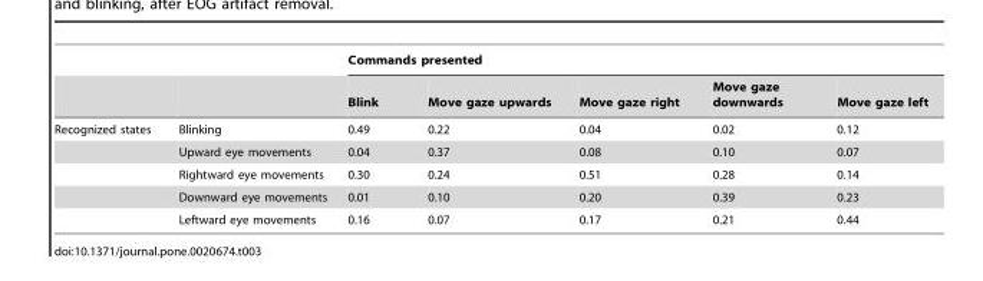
<table><thead><tr><td rowspan="2"></td><td rowspan="2"></td><td colspan="5">Commands presented</td></tr><tr><td>Blink</td><td>Move gaze upwards</td><td>Move gaze right</td><td>Move gaze downwards</td><td>Move gaze left</td></tr></thead><tbody><tr><td rowspan="5">Recognized states</td><td>Blinking</td><td>0.49</td><td>0.22</td><td>0.04</td><td>0.02</td><td>0.12</td></tr><tr><td>Upward eye movements</td><td>0.04</td><td>0.37</td><td>0.08</td><td>0.10</td><td>0.07</td></tr><tr><td>Rightward eye movements</td><td>0.30</td><td>0.24</td><td>0.51</td><td>0.28</td><td>0.14</td></tr><tr><td>Downward eye movements</td><td>0.01</td><td>0.10</td><td>0.20</td><td>0.39</td><td>0.23</td></tr><tr><td>Leftward eye movements</td><td>0.16</td><td>0.07</td><td>0.17</td><td>0.21</td><td>0.44</td></tr></tbody></table>